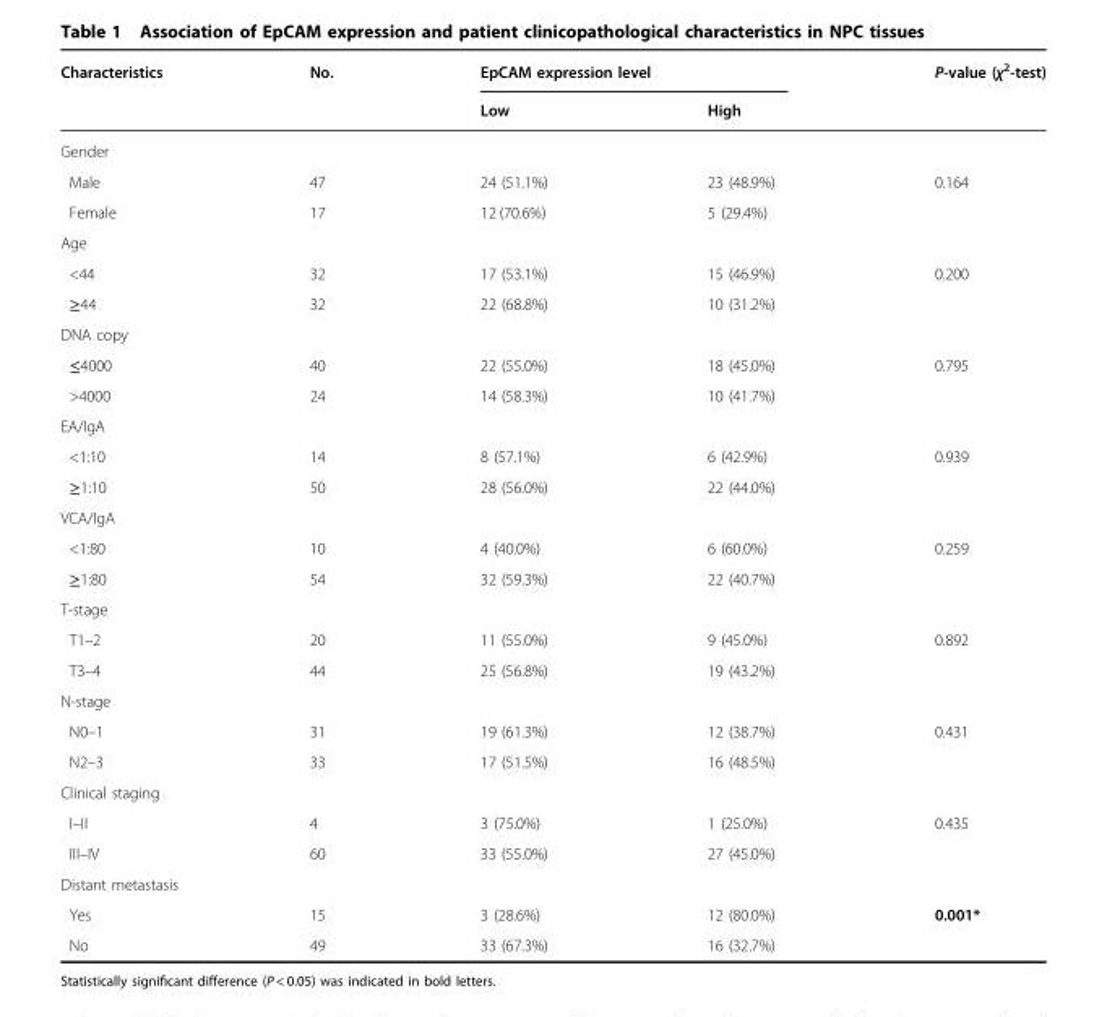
<table><thead><tr><td rowspan="2">Characteristics</td><td rowspan="2">No.</td><td colspan="2">EpCAM expression level</td><td rowspan="2">P-value (χ<sup>2</sup>-test)</td></tr><tr><td>Low</td><td>High</td></tr></thead><tbody><tr><td colspan="5">Gender</td></tr><tr><td>Male</td><td>47</td><td>24 (51.1%)</td><td>23 (48.9%)</td><td>0.164</td></tr><tr><td>Female</td><td>17</td><td>12 (70.6%)</td><td>5 (29.4%)</td><td></td></tr><tr><td colspan="5">Age</td></tr><tr><td>&lt;44</td><td>32</td><td>17 (53.1%)</td><td>15 (46.9%)</td><td>0.200</td></tr><tr><td>≥44</td><td>32</td><td>22 (68.8%)</td><td>10 (31.2%)</td><td></td></tr><tr><td colspan="5">DNA copy</td></tr><tr><td>≤4000</td><td>40</td><td>22 (55.0%)</td><td>18 (45.0%)</td><td>0.795</td></tr><tr><td>&gt;4000</td><td>24</td><td>14 (58.3%)</td><td>10 (41.7%)</td><td></td></tr><tr><td colspan="5">EA/IgA</td></tr><tr><td>&lt;1:10</td><td>14</td><td>8 (57.1%)</td><td>6 (42.9%)</td><td>0.939</td></tr><tr><td>≥1:10</td><td>50</td><td>28 (56.0%)</td><td>22 (44.0%)</td><td></td></tr><tr><td colspan="5">VCA/IgA</td></tr><tr><td>&lt;1:80</td><td>10</td><td>4 (40.0%)</td><td>6 (60.0%)</td><td>0.259</td></tr><tr><td>≥1:80</td><td>54</td><td>32 (59.3%)</td><td>22 (40.7%)</td><td></td></tr><tr><td colspan="5">T-stage</td></tr><tr><td>T1–2</td><td>20</td><td>11 (55.0%)</td><td>9 (45.0%)</td><td>0.892</td></tr><tr><td>T3–4</td><td>44</td><td>25 (56.8%)</td><td>19 (43.2%)</td><td></td></tr><tr><td colspan="5">N-stage</td></tr><tr><td>N0–1</td><td>31</td><td>19 (61.3%)</td><td>12 (38.7%)</td><td>0.431</td></tr><tr><td>N2–3</td><td>33</td><td>17 (51.5%)</td><td>16 (48.5%)</td><td></td></tr><tr><td colspan="5">Clinical staging</td></tr><tr><td>I–II</td><td>4</td><td>3 (75.0%)</td><td>1 (25.0%)</td><td>0.435</td></tr><tr><td>III–IV</td><td>60</td><td>33 (55.0%)</td><td>27 (45.0%)</td><td></td></tr><tr><td colspan="5">Distant metastasis</td></tr><tr><td>Yes</td><td>15</td><td>3 (28.6%)</td><td>12 (80.0%)</td><td>0.001*</td></tr><tr><td>No</td><td>49</td><td>33 (67.3%)</td><td>16 (32.7%)</td><td></td></tr></tbody></table>